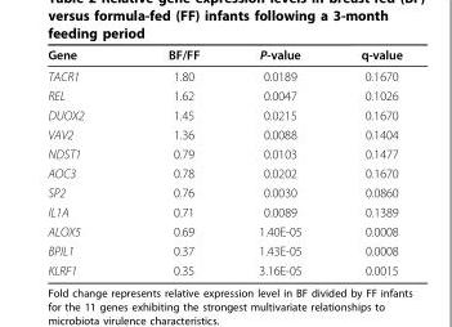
<table><thead><tr><td>Gene</td><td>BF/FF</td><td>P-value</td><td>q-value</td></tr></thead><tbody><tr><td>TACR1</td><td>1.80</td><td>0.0189</td><td>0.1670</td></tr><tr><td>REL</td><td>1.62</td><td>0.0047</td><td>0.1026</td></tr><tr><td>DUOX2</td><td>1.45</td><td>0.0215</td><td>0.1670</td></tr><tr><td>VAV2</td><td>1.36</td><td>0.0088</td><td>0.1404</td></tr><tr><td>NDST1</td><td>0.79</td><td>0.0103</td><td>0.1477</td></tr><tr><td>AOC3</td><td>0.78</td><td>0.0202</td><td>0.1670</td></tr><tr><td>SP2</td><td>0.76</td><td>0.0030</td><td>0.0860</td></tr><tr><td>IL1A</td><td>0.71</td><td>0.0089</td><td>0.1389</td></tr><tr><td>ALOX5</td><td>0.69</td><td>1.40E-05</td><td>0.0008</td></tr><tr><td>BPIL1</td><td>0.37</td><td>1.43E-05</td><td>0.0008</td></tr><tr><td>KLRF1</td><td>0.35</td><td>3.16E-05</td><td>0.0015</td></tr></tbody></table>